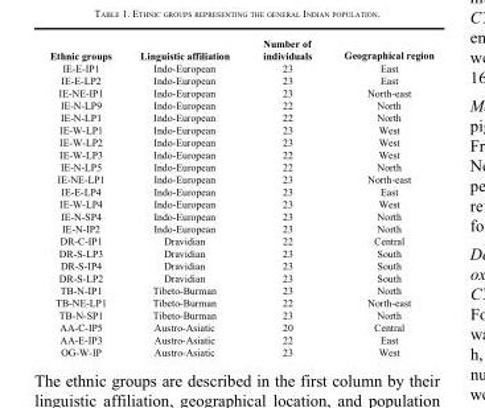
<table><tbody><tr><td>Ethnic groups</td><td>Linguistic affiliation</td><td>individuals</td><td>Geographical region</td></tr><tr><td>IE-E-IP1</td><td>Indo-European</td><td>23</td><td>East</td></tr><tr><td>IE-E-LP2</td><td>Indo-European</td><td>23</td><td>East</td></tr><tr><td>IE-NE-IP1</td><td>Indo-European</td><td>23</td><td>North-east</td></tr><tr><td>IE-N-LP9</td><td>Indo-European</td><td>22</td><td>North</td></tr><tr><td>IE-N-LP1</td><td>Indo-European</td><td>22</td><td>North</td></tr><tr><td>IE-W-LP1</td><td>Indo-European</td><td>23</td><td>West</td></tr><tr><td>IE-W-LP2</td><td>Indo-European</td><td>23</td><td>West</td></tr><tr><td>IE-W-LP3</td><td>Indo-European</td><td>22</td><td>West</td></tr><tr><td>IE-N-LP5</td><td>Indo-European</td><td>22</td><td>North</td></tr><tr><td>IE-NE-LP1</td><td>Indo-European</td><td>23</td><td>North-east</td></tr><tr><td>IE-E-LP4</td><td>Indo-European</td><td>23</td><td>East</td></tr><tr><td>IE-W-LP4</td><td>Indo-European</td><td>23</td><td>West</td></tr><tr><td>IE-N-SP4</td><td>Indo-European</td><td>23</td><td>North</td></tr><tr><td>IE-N-IP2</td><td>Indo-European</td><td>23</td><td>North</td></tr><tr><td>DR-C-IP1</td><td>Dravidian</td><td>22</td><td>Central</td></tr><tr><td>DR-S-LP3</td><td>Dravidian</td><td>23</td><td>South</td></tr><tr><td>DR-S-IP4</td><td>Dravidian</td><td>23</td><td>South</td></tr><tr><td>DR-S-LP2</td><td>Dravidian</td><td>23</td><td>South</td></tr><tr><td>TB-N-IP1</td><td>Tibeto-Burman</td><td>23</td><td>North</td></tr><tr><td>TB-NE-LP1</td><td>Tibeto-Burman</td><td>22</td><td>North-east</td></tr><tr><td>TB-N-SP1</td><td>Tibeto-Burman</td><td>23</td><td>North</td></tr><tr><td>AA-C-IP5</td><td>Austro-Asiatic</td><td>20</td><td>Central</td></tr><tr><td>AA-E-IP3</td><td>Austro-Asiatic</td><td>22</td><td>East</td></tr><tr><td>OG-W-IP</td><td>Austro-Asiatic</td><td>23</td><td>West</td></tr></tbody></table>